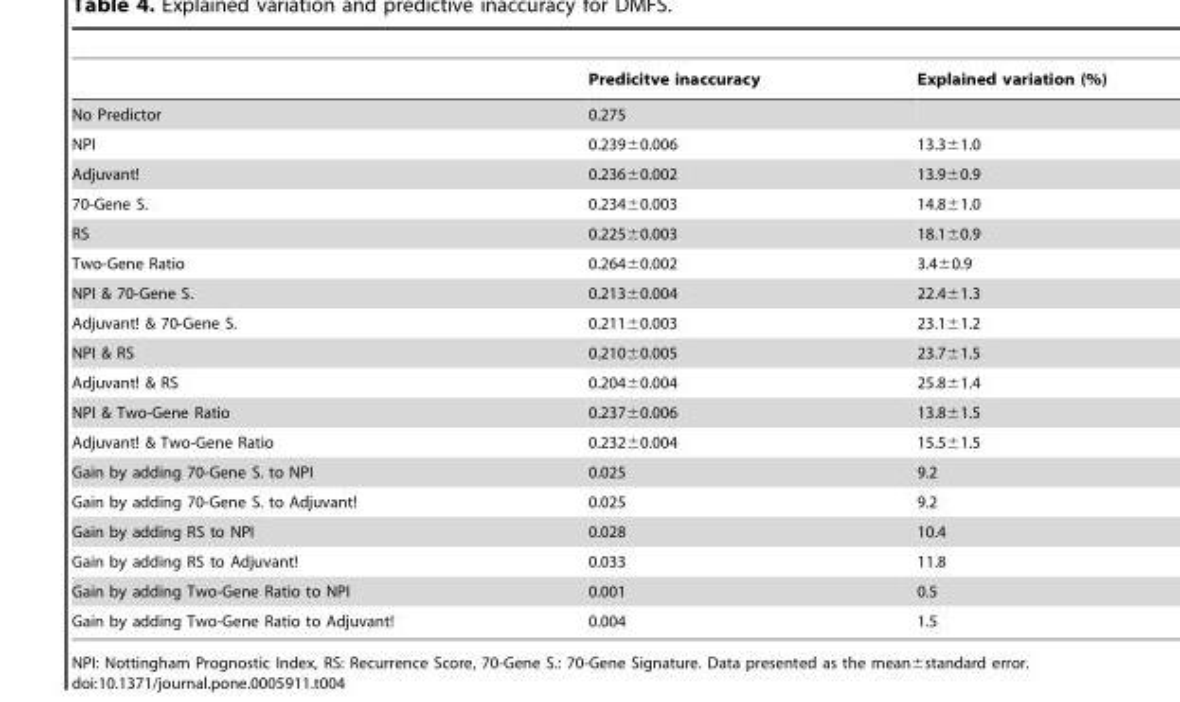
<table><thead><tr><td></td><td>Predicitve inaccuracy</td><td>Explained variation (%)</td></tr></thead><tbody><tr><td>No Predictor</td><td>0.275</td><td></td></tr><tr><td>NPI</td><td>0.239±0.006</td><td>13.3±1.0</td></tr><tr><td>Adjuvant!</td><td>0.236±0.002</td><td>13.9±0.9</td></tr><tr><td>70-Gene S.</td><td>0.234±0.003</td><td>14.8±1.0</td></tr><tr><td>RS</td><td>0.225±0.003</td><td>18.1±0.9</td></tr><tr><td>Two-Gene Ratio</td><td>0.264±0.002</td><td>3.4±0.9</td></tr><tr><td>NPI &amp; 70-Gene S.</td><td>0.213±0.004</td><td>22.4±1.3</td></tr><tr><td>Adjuvant! &amp; 70-Gene S.</td><td>0.211±0.003</td><td>23.1±1.2</td></tr><tr><td>NPI &amp; RS</td><td>0.210±0.005</td><td>23.7±1.5</td></tr><tr><td>Adjuvant! &amp; RS</td><td>0.204±0.004</td><td>25.8±1.4</td></tr><tr><td>NPI &amp; Two-Gene Ratio</td><td>0.237±0.006</td><td>13.8±1.5</td></tr><tr><td>Adjuvant! &amp; Two-Gene Ratio</td><td>0.232±0.004</td><td>15.5±1.5</td></tr><tr><td>Gain by adding 70-Gene S. to NPI</td><td>0.025</td><td>9.2</td></tr><tr><td>Gain by adding 70-Gene S. to Adjuvant!</td><td>0.025</td><td>9.2</td></tr><tr><td>Gain by adding RS to NPI</td><td>0.028</td><td>10.4</td></tr><tr><td>Gain by adding RS to Adjuvant!</td><td>0.033</td><td>11.8</td></tr><tr><td>Gain by adding Two-Gene Ratio to NPI</td><td>0.001</td><td>0.5</td></tr><tr><td>Gain by adding Two-Gene Ratio to Adjuvant!</td><td>0.004</td><td>1.5</td></tr></tbody></table>